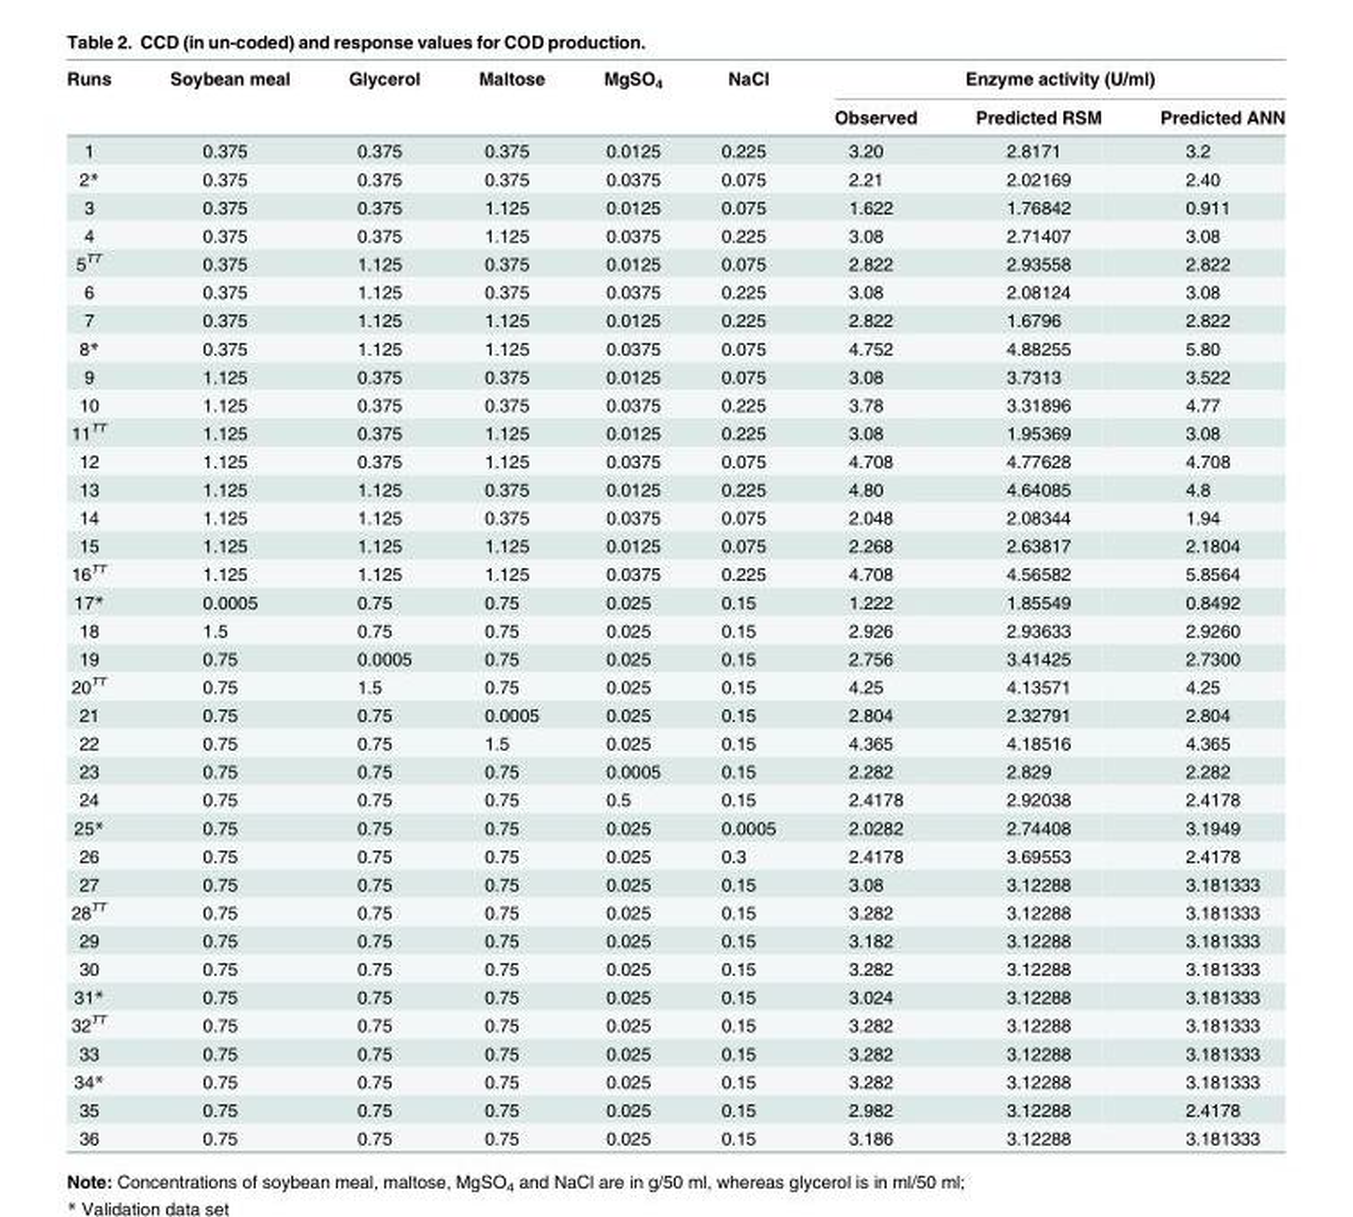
<table><thead><tr><td rowspan="2">Runs</td><td rowspan="2">Soybean meal</td><td rowspan="2">Glycerol</td><td rowspan="2">Maltose</td><td rowspan="2">MgSO<sub>4</sub></td><td rowspan="2">NaCl</td><td colspan="3">Enzyme activity (U/ml)</td></tr><tr><td>Observed</td><td>Predicted RSM</td><td>Predicted ANN</td></tr></thead><tbody><tr><td>1</td><td>0.375</td><td>0.375</td><td>0.375</td><td>0.0125</td><td>0.225</td><td>3.20</td><td>2.8171</td><td>3.2</td></tr><tr><td>2*</td><td>0.375</td><td>0.375</td><td>0.375</td><td>0.0375</td><td>0.075</td><td>2.21</td><td>2.02169</td><td>2.40</td></tr><tr><td>3</td><td>0.375</td><td>0.375</td><td>1.125</td><td>0.0125</td><td>0.075</td><td>1.622</td><td>1.76842</td><td>0.911</td></tr><tr><td>4</td><td>0.375</td><td>0.375</td><td>1.125</td><td>0.0375</td><td>0.225</td><td>3.08</td><td>2.71407</td><td>3.08</td></tr><tr><td>5<sup>TT</sup></td><td>0.375</td><td>1.125</td><td>0.375</td><td>0.0125</td><td>0.075</td><td>2.822</td><td>2.93558</td><td>2.822</td></tr><tr><td>6</td><td>0.375</td><td>1.125</td><td>0.375</td><td>0.0375</td><td>0.225</td><td>3.08</td><td>2.08124</td><td>3.08</td></tr><tr><td>7</td><td>0.375</td><td>1.125</td><td>1.125</td><td>0.0125</td><td>0.225</td><td>2.822</td><td>1.6796</td><td>2.822</td></tr><tr><td>8*</td><td>0.375</td><td>1.125</td><td>1.125</td><td>0.0375</td><td>0.075</td><td>4.752</td><td>4.88255</td><td>5.80</td></tr><tr><td>9</td><td>1.125</td><td>0.375</td><td>0.375</td><td>0.0125</td><td>0.075</td><td>3.08</td><td>3.7313</td><td>3.522</td></tr><tr><td>10</td><td>1.125</td><td>0.375</td><td>0.375</td><td>0.0375</td><td>0.225</td><td>3.78</td><td>3.31896</td><td>4.77</td></tr><tr><td>11<sup>TT</sup></td><td>1.125</td><td>0.375</td><td>1.125</td><td>0.0125</td><td>0.225</td><td>3.08</td><td>1.95369</td><td>3.08</td></tr><tr><td>12</td><td>1.125</td><td>0.375</td><td>1.125</td><td>0.0375</td><td>0.075</td><td>4.708</td><td>4.77628</td><td>4.708</td></tr><tr><td>13</td><td>1.125</td><td>1.125</td><td>0.375</td><td>0.0125</td><td>0.225</td><td>4.80</td><td>4.64085</td><td>4.8</td></tr><tr><td>14</td><td>1.125</td><td>1.125</td><td>0.375</td><td>0.0375</td><td>0.075</td><td>2.048</td><td>2.08344</td><td>1.94</td></tr><tr><td>15</td><td>1.125</td><td>1.125</td><td>1.125</td><td>0.0125</td><td>0.075</td><td>2.268</td><td>2.63817</td><td>2.1804</td></tr><tr><td>16<sup>TT</sup></td><td>1.125</td><td>1.125</td><td>1.125</td><td>0.0375</td><td>0.225</td><td>4.708</td><td>4.56582</td><td>5.8564</td></tr><tr><td>17*</td><td>0.0005</td><td>0.75</td><td>0.75</td><td>0.025</td><td>0.15</td><td>1.222</td><td>1.85549</td><td>0.8492</td></tr><tr><td>18</td><td>1.5</td><td>0.75</td><td>0.75</td><td>0.025</td><td>0.15</td><td>2.926</td><td>2.93633</td><td>2.9260</td></tr><tr><td>19</td><td>0.75</td><td>0.0005</td><td>0.75</td><td>0.025</td><td>0.15</td><td>2.756</td><td>3.41425</td><td>2.7300</td></tr><tr><td>20<sup>TT</sup></td><td>0.75</td><td>1.5</td><td>0.75</td><td>0.025</td><td>0.15</td><td>4.25</td><td>4.13571</td><td>4.25</td></tr><tr><td>21</td><td>0.75</td><td>0.75</td><td>0.0005</td><td>0.025</td><td>0.15</td><td>2.804</td><td>2.32791</td><td>2.804</td></tr><tr><td>22</td><td>0.75</td><td>0.75</td><td>1.5</td><td>0.025</td><td>0.15</td><td>4.365</td><td>4.18516</td><td>4.365</td></tr><tr><td>23</td><td>0.75</td><td>0.75</td><td>0.75</td><td>0.0005</td><td>0.15</td><td>2.282</td><td>2.829</td><td>2.282</td></tr><tr><td>24</td><td>0.75</td><td>0.75</td><td>0.75</td><td>0.5</td><td>0.15</td><td>2.4178</td><td>2.92038</td><td>2.4178</td></tr><tr><td>25*</td><td>0.75</td><td>0.75</td><td>0.75</td><td>0.025</td><td>0.0005</td><td>2.0282</td><td>2.74408</td><td>3.1949</td></tr><tr><td>26</td><td>0.75</td><td>0.75</td><td>0.75</td><td>0.025</td><td>0.3</td><td>2.4178</td><td>3.69553</td><td>2.4178</td></tr><tr><td>27</td><td>0.75</td><td>0.75</td><td>0.75</td><td>0.025</td><td>0.15</td><td>3.08</td><td>3.12288</td><td>3.181333</td></tr><tr><td>28<sup>TT</sup></td><td>0.75</td><td>0.75</td><td>0.75</td><td>0.025</td><td>0.15</td><td>3.282</td><td>3.12288</td><td>3.181333</td></tr><tr><td>29</td><td>0.75</td><td>0.75</td><td>0.75</td><td>0.025</td><td>0.15</td><td>3.182</td><td>3.12288</td><td>3.181333</td></tr><tr><td>30</td><td>0.75</td><td>0.75</td><td>0.75</td><td>0.025</td><td>0.15</td><td>3.282</td><td>3.12288</td><td>3.181333</td></tr><tr><td>31*</td><td>0.75</td><td>0.75</td><td>0.75</td><td>0.025</td><td>0.15</td><td>3.024</td><td>3.12288</td><td>3.181333</td></tr><tr><td>32<sup>TT</sup></td><td>0.75</td><td>0.75</td><td>0.75</td><td>0.025</td><td>0.15</td><td>3.282</td><td>3.12288</td><td>3.181333</td></tr><tr><td>33</td><td>0.75</td><td>0.75</td><td>0.75</td><td>0.025</td><td>0.15</td><td>3.282</td><td>3.12288</td><td>3.181333</td></tr><tr><td>34*</td><td>0.75</td><td>0.75</td><td>0.75</td><td>0.025</td><td>0.15</td><td>3.282</td><td>3.12288</td><td>3.181333</td></tr><tr><td>35</td><td>0.75</td><td>0.75</td><td>0.75</td><td>0.025</td><td>0.15</td><td>2.982</td><td>3.12288</td><td>2.4178</td></tr><tr><td>36</td><td>0.75</td><td>0.75</td><td>0.75</td><td>0.025</td><td>0.15</td><td>3.186</td><td>3.12288</td><td>3.181333</td></tr></tbody></table>